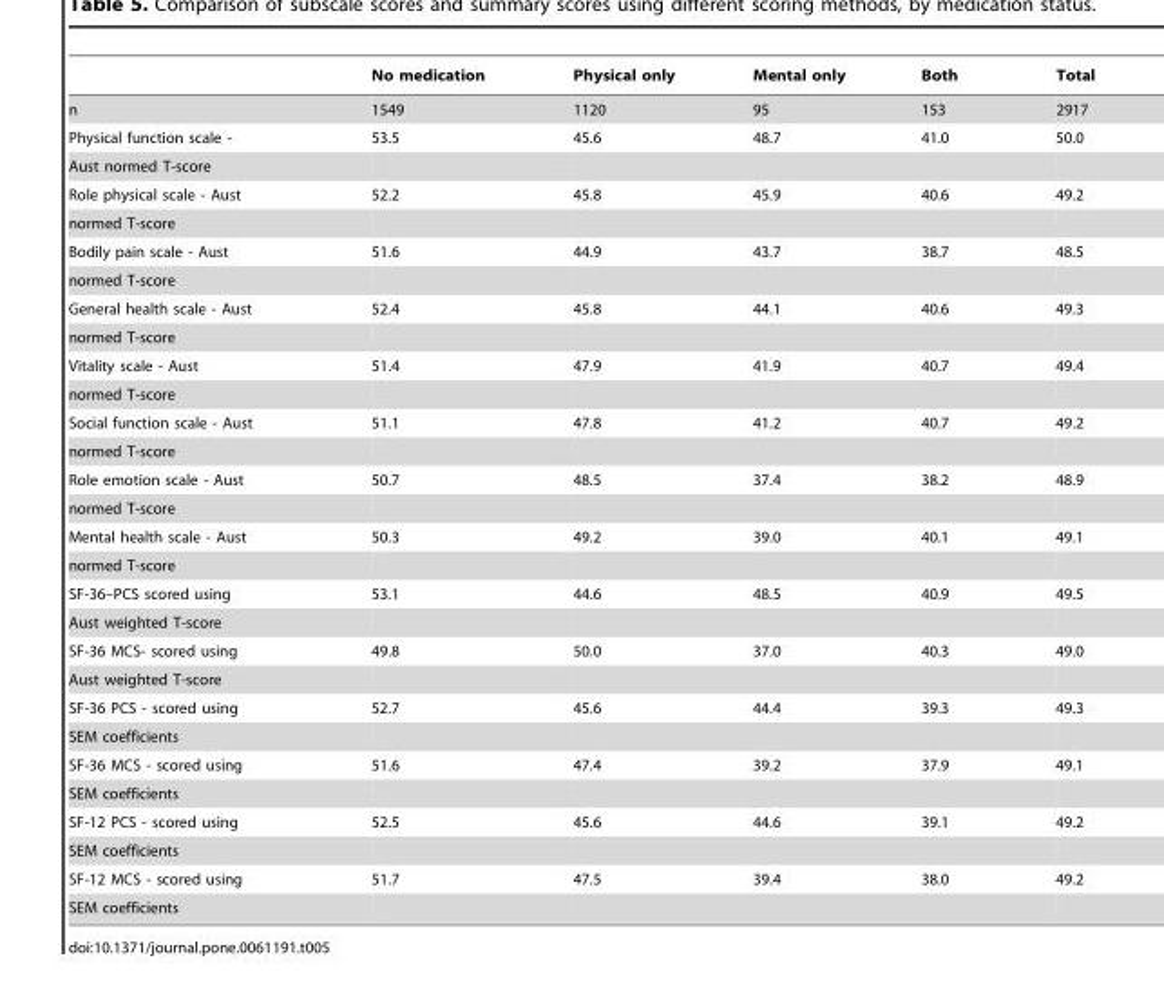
<table><thead><tr><td></td><td>No medication</td><td>Physical only</td><td>Mental only</td><td>Both</td><td>Total</td></tr></thead><tbody><tr><td>n</td><td>1549</td><td>1120</td><td>95</td><td>153</td><td>2917</td></tr><tr><td>Physical function scale -</td><td>53.5</td><td>45.6</td><td>48.7</td><td>41.0</td><td>50.0</td></tr><tr><td colspan="6">Aust normed T-score</td></tr><tr><td>Role physical scale - Aust</td><td>52.2</td><td>45.8</td><td>45.9</td><td>40.6</td><td>49.2</td></tr><tr><td colspan="6">normed T-score</td></tr><tr><td>Bodily pain scale - Aust</td><td>51.6</td><td>44.9</td><td>43.7</td><td>38.7</td><td>48.5</td></tr><tr><td colspan="6">normed T-score</td></tr><tr><td>General health scale - Aust</td><td>52.4</td><td>45.8</td><td>44.1</td><td>40.6</td><td>49.3</td></tr><tr><td colspan="6">normed T-score</td></tr><tr><td>Vitality scale - Aust</td><td>51.4</td><td>47.9</td><td>41.9</td><td>40.7</td><td>49.4</td></tr><tr><td colspan="6">normed T-score</td></tr><tr><td>Social function scale - Aust</td><td>51.1</td><td>47.8</td><td>41.2</td><td>40.7</td><td>49.2</td></tr><tr><td colspan="6">normed T-score</td></tr><tr><td>Role emotion scale - Aust</td><td>50.7</td><td>48.5</td><td>37.4</td><td>38.2</td><td>48.9</td></tr><tr><td colspan="6">normed T-score</td></tr><tr><td>Mental health scale - Aust</td><td>50.3</td><td>49.2</td><td>39.0</td><td>40.1</td><td>49.1</td></tr><tr><td colspan="6">normed T-score</td></tr><tr><td>SF-36–PCS scored using</td><td>53.1</td><td>44.6</td><td>48.5</td><td>40.9</td><td>49.5</td></tr><tr><td colspan="6">Aust weighted T-score</td></tr><tr><td>SF-36 MCS- scored using</td><td>49.8</td><td>50.0</td><td>37.0</td><td>40.3</td><td>49.0</td></tr><tr><td colspan="6">Aust weighted T-score</td></tr><tr><td>SF-36 PCS - scored using</td><td>52.7</td><td>45.6</td><td>44.4</td><td>39.3</td><td>49.3</td></tr><tr><td colspan="6">SEM coefficients</td></tr><tr><td>SF-36 MCS - scored using</td><td>51.6</td><td>47.4</td><td>39.2</td><td>37.9</td><td>49.1</td></tr><tr><td colspan="6">SEM coefficients</td></tr><tr><td>SF-12 PCS - scored using</td><td>52.5</td><td>45.6</td><td>44.6</td><td>39.1</td><td>49.2</td></tr><tr><td colspan="6">SEM coefficients</td></tr><tr><td>SF-12 MCS - scored using</td><td>51.7</td><td>47.5</td><td>39.4</td><td>38.0</td><td>49.2</td></tr><tr><td>SEM coefficients</td><td></td><td></td><td></td><td></td><td></td></tr></tbody></table>